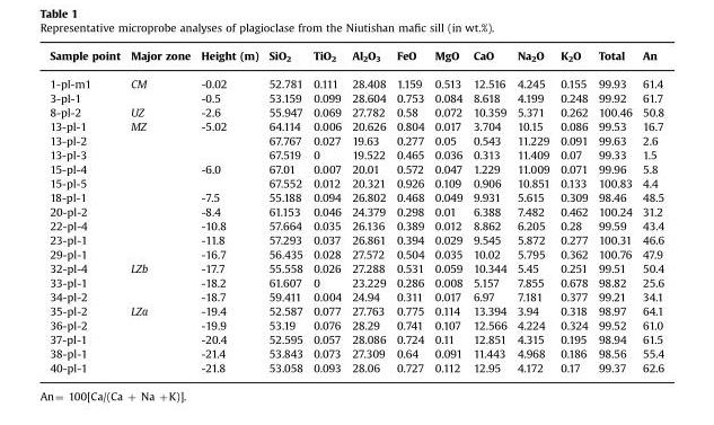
<table><thead><tr><td>Sample point</td><td>Major zone</td><td>Height (m)</td><td>SiO<sub>2</sub></td><td>TiO<sub>2</sub></td><td>Al<sub>2</sub>O<sub>3</sub></td><td>FeO</td><td>MgO</td><td>CaO</td><td>Na<sub>2</sub>O</td><td>K<sub>2</sub>O</td><td>Total</td><td>An</td></tr></thead><tbody><tr><td>1-pl-m1</td><td rowspan="2">CM</td><td>-0.02</td><td>52.781</td><td>0.111</td><td>28.408</td><td>1.159</td><td>0.513</td><td>12.516</td><td>4.245</td><td>0.155</td><td>99.93</td><td>61.4</td></tr><tr><td>3-pl-1</td><td>-0.5</td><td>53.159</td><td>0.099</td><td>28.604</td><td>0.753</td><td>0.084</td><td>8.618</td><td>4.199</td><td>0.248</td><td>99.92</td><td>61.7</td></tr><tr><td>8-pl-2</td><td>UZ</td><td>-2.6</td><td>55.947</td><td>0.069</td><td>27.782</td><td>0.58</td><td>0.072</td><td>10.359</td><td>5.371</td><td>0.262</td><td>100.46</td><td>50.8</td></tr><tr><td>13-pl-1</td><td rowspan="10">MZ</td><td rowspan="3">-5.02</td><td>64.114</td><td>0.006</td><td>20.626</td><td>0.804</td><td>0.017</td><td>3.704</td><td>10.15</td><td>0.086</td><td>99.53</td><td>16.7</td></tr><tr><td>13-pl-2</td><td>67.767</td><td>0.027</td><td>19.63</td><td>0.277</td><td>0.05</td><td>0.543</td><td>11.229</td><td>0.091</td><td>99.63</td><td>2.6</td></tr><tr><td>13-pl-3</td><td>67.519</td><td>0</td><td>19.522</td><td>0.465</td><td>0.036</td><td>0.313</td><td>11.409</td><td>0.07</td><td>99.33</td><td>1.5</td></tr><tr><td>15-pl-4</td><td rowspan="2">-6.0</td><td>67.01</td><td>0.007</td><td>20.01</td><td>0.572</td><td>0.047</td><td>1.229</td><td>11.009</td><td>0.071</td><td>99.96</td><td>5.8</td></tr><tr><td>15-pl-5</td><td>67.552</td><td>0.012</td><td>20.321</td><td>0.926</td><td>0.109</td><td>0.906</td><td>10.851</td><td>0.133</td><td>100.83</td><td>4.4</td></tr><tr><td>18-pl-1</td><td>-7.5</td><td>55.188</td><td>0.094</td><td>26.802</td><td>0.468</td><td>0.049</td><td>9.931</td><td>5.615</td><td>0.309</td><td>98.46</td><td>48.5</td></tr><tr><td>20-pl-2</td><td>-8.4</td><td>61.153</td><td>0.046</td><td>24.379</td><td>0.298</td><td>0.01</td><td>6.388</td><td>7.482</td><td>0.462</td><td>100.24</td><td>31.2</td></tr><tr><td>22-pl-4</td><td>-10.8</td><td>57.664</td><td>0.035</td><td>26.136</td><td>0.389</td><td>0.012</td><td>8.862</td><td>6.205</td><td>0.28</td><td>99.59</td><td>43.4</td></tr><tr><td>23-pl-1</td><td>-11.8</td><td>57.293</td><td>0.037</td><td>26.861</td><td>0.394</td><td>0.029</td><td>9.545</td><td>5.872</td><td>0.277</td><td>100.31</td><td>46.6</td></tr><tr><td>29-pl-1</td><td>-16.7</td><td>56.435</td><td>0.028</td><td>27.572</td><td>0.504</td><td>0.035</td><td>10.02</td><td>5.795</td><td>0.362</td><td>100.76</td><td>47.9</td></tr><tr><td>32-pl-4</td><td rowspan="3">LZb</td><td>-17.7</td><td>55.558</td><td>0.026</td><td>27.288</td><td>0.531</td><td>0.059</td><td>10.344</td><td>5.45</td><td>0.251</td><td>99.51</td><td>50.4</td></tr><tr><td>33-pl-1</td><td>-18.2</td><td>61.607</td><td>0</td><td>23.229</td><td>0.286</td><td>0.008</td><td>5.157</td><td>7.855</td><td>0.678</td><td>98.82</td><td>25.6</td></tr><tr><td>34-pl-2</td><td>-18.7</td><td>59.411</td><td>0.004</td><td>24.94</td><td>0.311</td><td>0.017</td><td>6.97</td><td>7.181</td><td>0.377</td><td>99.21</td><td>34.1</td></tr><tr><td>35-pl-2</td><td rowspan="5">LZa</td><td>-19.4</td><td>52.587</td><td>0.077</td><td>27.763</td><td>0.775</td><td>0.114</td><td>13.394</td><td>3.94</td><td>0.318</td><td>98.97</td><td>64.1</td></tr><tr><td>36-pl-2</td><td>-19.9</td><td>53.19</td><td>0.076</td><td>28.29</td><td>0.741</td><td>0.107</td><td>12.566</td><td>4.224</td><td>0.324</td><td>99.52</td><td>61.0</td></tr><tr><td>37-pl-1</td><td>-20.4</td><td>52.595</td><td>0.057</td><td>28.086</td><td>0.724</td><td>0.11</td><td>12.851</td><td>4.315</td><td>0.195</td><td>98.94</td><td>61.5</td></tr><tr><td>38-pl-1</td><td>-21.4</td><td>53.843</td><td>0.073</td><td>27.309</td><td>0.64</td><td>0.091</td><td>11.443</td><td>4.968</td><td>0.186</td><td>98.56</td><td>55.4</td></tr><tr><td>40-pl-1</td><td>-21.8</td><td>53.058</td><td>0.093</td><td>28.06</td><td>0.727</td><td>0.112</td><td>12.95</td><td>4.172</td><td>0.17</td><td>99.37</td><td>62.6</td></tr></tbody></table>